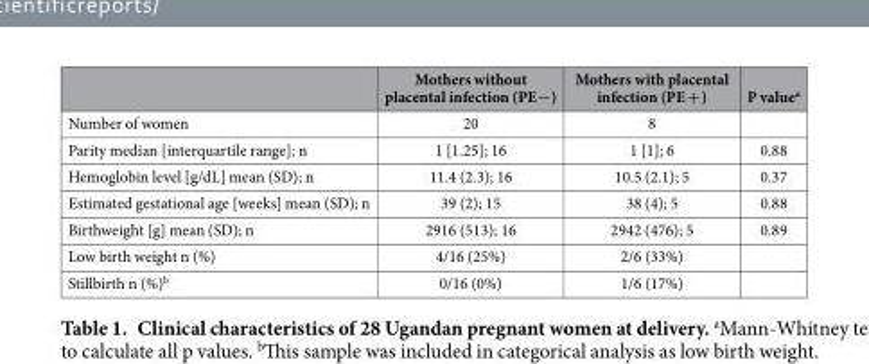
<table><thead><tr><td></td><td>Mothers without placental infection (PE−)</td><td>Mothers with placental infection (PE + )</td><td>P value<sup>a</sup></td></tr></thead><tbody><tr><td>Number of women</td><td>20</td><td>8</td><td></td></tr><tr><td>Parity median [interquartile range]; n</td><td>1 [1.25]; 16</td><td>1 [1]; 6</td><td>0.88</td></tr><tr><td>Hemoglobin level [g/dL] mean (SD); n</td><td>11.4 (2.3); 16</td><td>10.5 (2.1); 5</td><td>0.37</td></tr><tr><td>Estimated gestational age [weeks] mean (SD); n</td><td>39 (2); 15</td><td>38 (4); 5</td><td>0.88</td></tr><tr><td>Birthweight [g] mean (SD); n</td><td>2916 (513); 16</td><td>2942 (476); 5</td><td>0.89</td></tr><tr><td>Low birth weight n (%)</td><td>4/16 (25%)</td><td>2/6 (33%)</td><td></td></tr><tr><td>Stillbirth n (%)<sup>b</sup></td><td>0/16 (0%)</td><td>1/6 (17%)</td><td></td></tr></tbody></table>